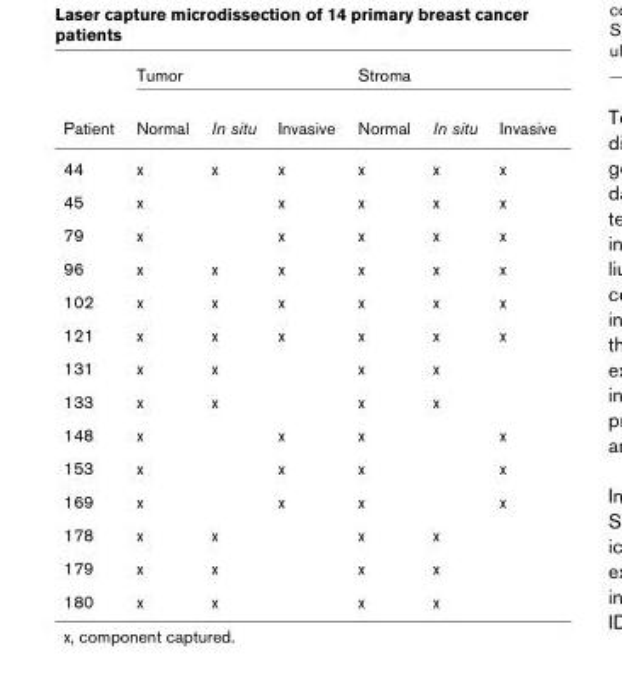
<table><thead><tr><td rowspan="2">Patient</td><td colspan="3">Tumor</td><td colspan="3">Stroma</td></tr><tr><td>Normal</td><td>In situ</td><td>Invasive</td><td>Normal</td><td>In situ</td><td>Invasive</td></tr></thead><tbody><tr><td>44</td><td>x</td><td>x</td><td>x</td><td>x</td><td>x</td><td>x</td></tr><tr><td>45</td><td>x</td><td></td><td>x</td><td>x</td><td>x</td><td>x</td></tr><tr><td>79</td><td>x</td><td></td><td>x</td><td>x</td><td>x</td><td>x</td></tr><tr><td>96</td><td>x</td><td>x</td><td>x</td><td>x</td><td>x</td><td>x</td></tr><tr><td>102</td><td>x</td><td>x</td><td>x</td><td>x</td><td>x</td><td>x</td></tr><tr><td>121</td><td>x</td><td>x</td><td>x</td><td>x</td><td>x</td><td>x</td></tr><tr><td>131</td><td>x</td><td>x</td><td></td><td>x</td><td>x</td><td></td></tr><tr><td>133</td><td>x</td><td>x</td><td></td><td>x</td><td>x</td><td></td></tr><tr><td>148</td><td>x</td><td></td><td>x</td><td>x</td><td></td><td>x</td></tr><tr><td>153</td><td>x</td><td></td><td>x</td><td>x</td><td></td><td>x</td></tr><tr><td>169</td><td>x</td><td></td><td>x</td><td>x</td><td></td><td>x</td></tr><tr><td>178</td><td>x</td><td>x</td><td></td><td>x</td><td>x</td><td></td></tr><tr><td>179</td><td>x</td><td>x</td><td></td><td>x</td><td>x</td><td></td></tr><tr><td>180</td><td>x</td><td>x</td><td></td><td>x</td><td>x</td><td></td></tr></tbody></table>